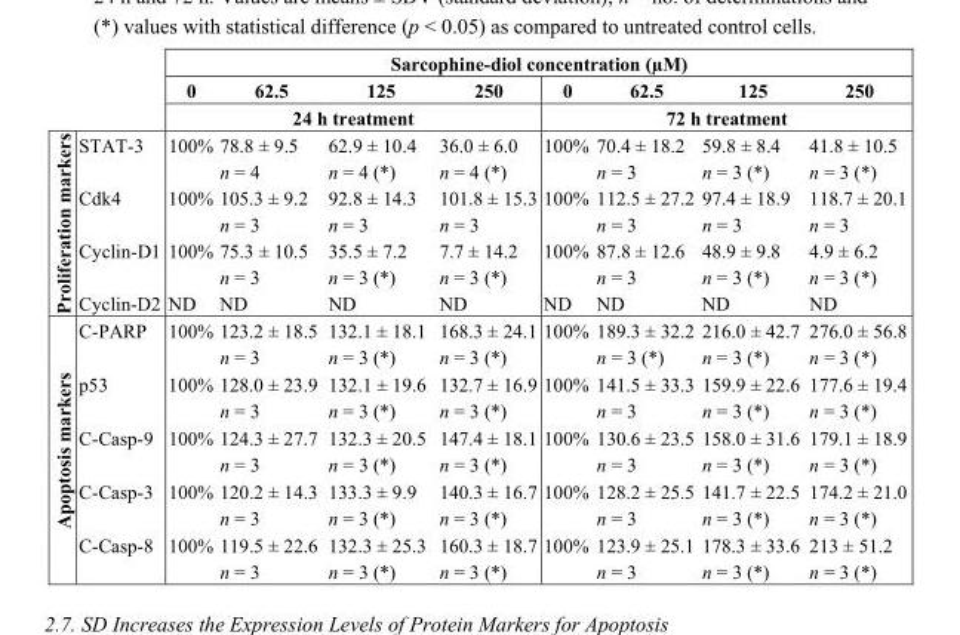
<table><thead><tr><td rowspan="3"></td><td rowspan="3"></td><td colspan="8">Sarcophine-diol concentration (µM)</td></tr><tr><td>0</td><td>62.5</td><td>125</td><td>250</td><td>0</td><td>62.5</td><td>125</td><td>250</td></tr><tr><td colspan="4">24 h treatment</td><td colspan="4">72 h treatment</td></tr></thead><tbody><tr><td rowspan="4">Proliferation markers</td><td>STAT-3</td><td>100%</td><td>78.8 ± 9.5 n = 4</td><td>62.9 ± 10.4 n = 4 (*)</td><td>36.0 ± 6.0 n = 4 (*)</td><td>100%</td><td>70.4 ± 18.2 n = 3</td><td>59.8 ± 8.4 n = 3 (*)</td><td>41.8 ± 10.5 n = 3 (*)</td></tr><tr><td>Cdk4</td><td>100%</td><td>105.3 ± 9.2 n = 3</td><td>92.8 ± 14.3 n = 3</td><td>101.8 ± 15.3 n = 3</td><td>100%</td><td>112.5 ± 27.2 n = 3</td><td>97.4 ± 18.9 n = 3</td><td>118.7 ± 20.1 n = 3</td></tr><tr><td>Cyclin-D1</td><td>100%</td><td>75.3 ± 10.5 n = 3</td><td>35.5 ± 7.2 n = 3 (*)</td><td>7.7 ± 14.2 n = 3 (*)</td><td>100%</td><td>87.8 ± 12.6 n = 3</td><td>48.9 ± 9.8 n = 3 (*)</td><td>4.9 ± 6.2 n = 3 (*)</td></tr><tr><td>Cyclin-D2</td><td>ND</td><td>ND</td><td>ND</td><td>ND</td><td>ND</td><td>ND</td><td>ND</td><td>ND</td></tr><tr><td rowspan="5">Apoptosis markers</td><td>C-PARP</td><td>100%</td><td>123.2 ± 18.5 n = 3</td><td>132.1 ± 18.1 n = 3 (*)</td><td>168.3 ± 24.1 n = 3 (*)</td><td>100%</td><td>189.3 ± 32.2 n = 3 (*)</td><td>216.0 ± 42.7 n = 3 (*)</td><td>276.0 ± 56.8 n = 3 (*)</td></tr><tr><td>p53</td><td>100%</td><td>128.0 ± 23.9 n = 3</td><td>132.1 ± 19.6 n = 3 (*)</td><td>132.7 ± 16.9 n = 3 (*)</td><td>100%</td><td>141.5 ± 33.3 n = 3</td><td>159.9 ± 22.6 n = 3 (*)</td><td>177.6 ± 19.4 n = 3 (*)</td></tr><tr><td>C-Casp-9</td><td>100%</td><td>124.3 ± 27.7 n = 3</td><td>132.3 ± 20.5 n = 3 (*)</td><td>147.4 ± 18.1 n = 3 (*)</td><td>100%</td><td>130.6 ± 23.5 n = 3</td><td>158.0 ± 31.6 n = 3 (*)</td><td>179.1 ± 18.9 n = 3 (*)</td></tr><tr><td>C-Casp-3</td><td>100%</td><td>120.2 ± 14.3 n = 3</td><td>133.3 ± 9.9 n = 3 (*)</td><td>140.3 ± 16.7 n = 3 (*)</td><td>100%</td><td>128.2 ± 25.5 n = 3</td><td>141.7 ± 22.5 n = 3 (*)</td><td>174.2 ± 21.0 n = 3 (*)</td></tr><tr><td>C-Casp-8</td><td>100%</td><td>119.5 ± 22.6 n = 3</td><td>132.3 ± 25.3 n = 3 (*)</td><td>160.3 ± 18.7 n = 3 (*)</td><td>100%</td><td>123.9 ± 25.1 n = 3</td><td>178.3 ± 33.6 n = 3 (*)</td><td>213 ± 51.2 n = 3 (*)</td></tr></tbody></table>